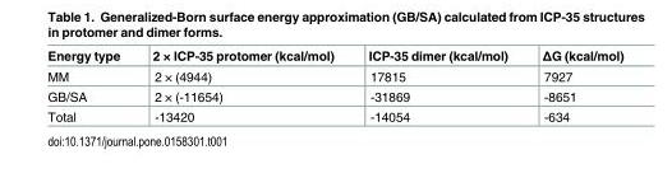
<table><thead><tr><td>Energy type</td><td>2 × ICP-35 protomer (kcal/mol)</td><td>ICP-35 dimer (kcal/mol)</td><td>ΔG (kcal/mol)</td></tr></thead><tbody><tr><td>MM</td><td>2 × (4944)</td><td>17815</td><td>7927</td></tr><tr><td>GB/SA</td><td>2 × (-11654)</td><td>-31869</td><td>-8651</td></tr><tr><td>Total</td><td>-13420</td><td>-14054</td><td>-634</td></tr></tbody></table>